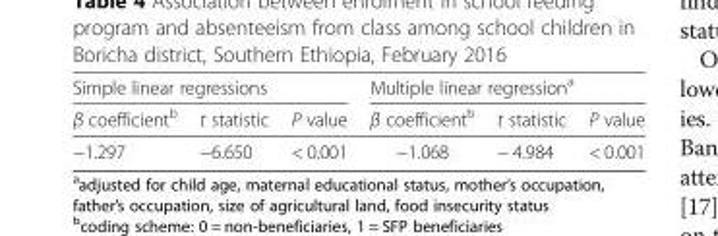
<table><thead><tr><td colspan="3">Simple linear regressions</td><td colspan="3">Multiple linear regression<sup>a</sup></td></tr><tr><td>β coefficient<sup>b</sup></td><td>t statistic</td><td>P value</td><td>β coefficient<sup>b</sup></td><td>t statistic</td><td>P value</td></tr></thead><tbody><tr><td>−1.297</td><td>−6.650</td><td>&lt; 0.001</td><td>−1.068</td><td>− 4.984</td><td>&lt; 0.001</td></tr></tbody></table>